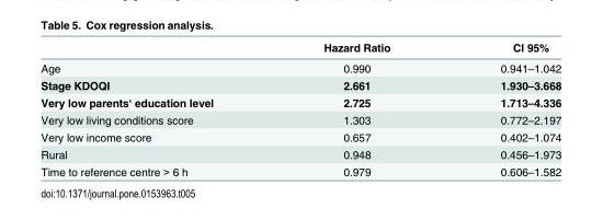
<table><thead><tr><td></td><td>Hazard Ratio</td><td>CI 95%</td></tr></thead><tbody><tr><td>Age</td><td>0.990</td><td>0.941–1.042</td></tr><tr><td>Stage KDOQI</td><td>2.661</td><td>1.930–3.668</td></tr><tr><td>Very low parents‘ education level</td><td>2.725</td><td>1.713–4.336</td></tr><tr><td>Very low living conditions score</td><td>1.303</td><td>0.772–2.197</td></tr><tr><td>Very low income score</td><td>0.657</td><td>0.402–1.074</td></tr><tr><td>Rural</td><td>0.948</td><td>0.456–1.973</td></tr><tr><td>Time to reference centre &gt; 6 h</td><td>0.979</td><td>0.606–1.582</td></tr></tbody></table>